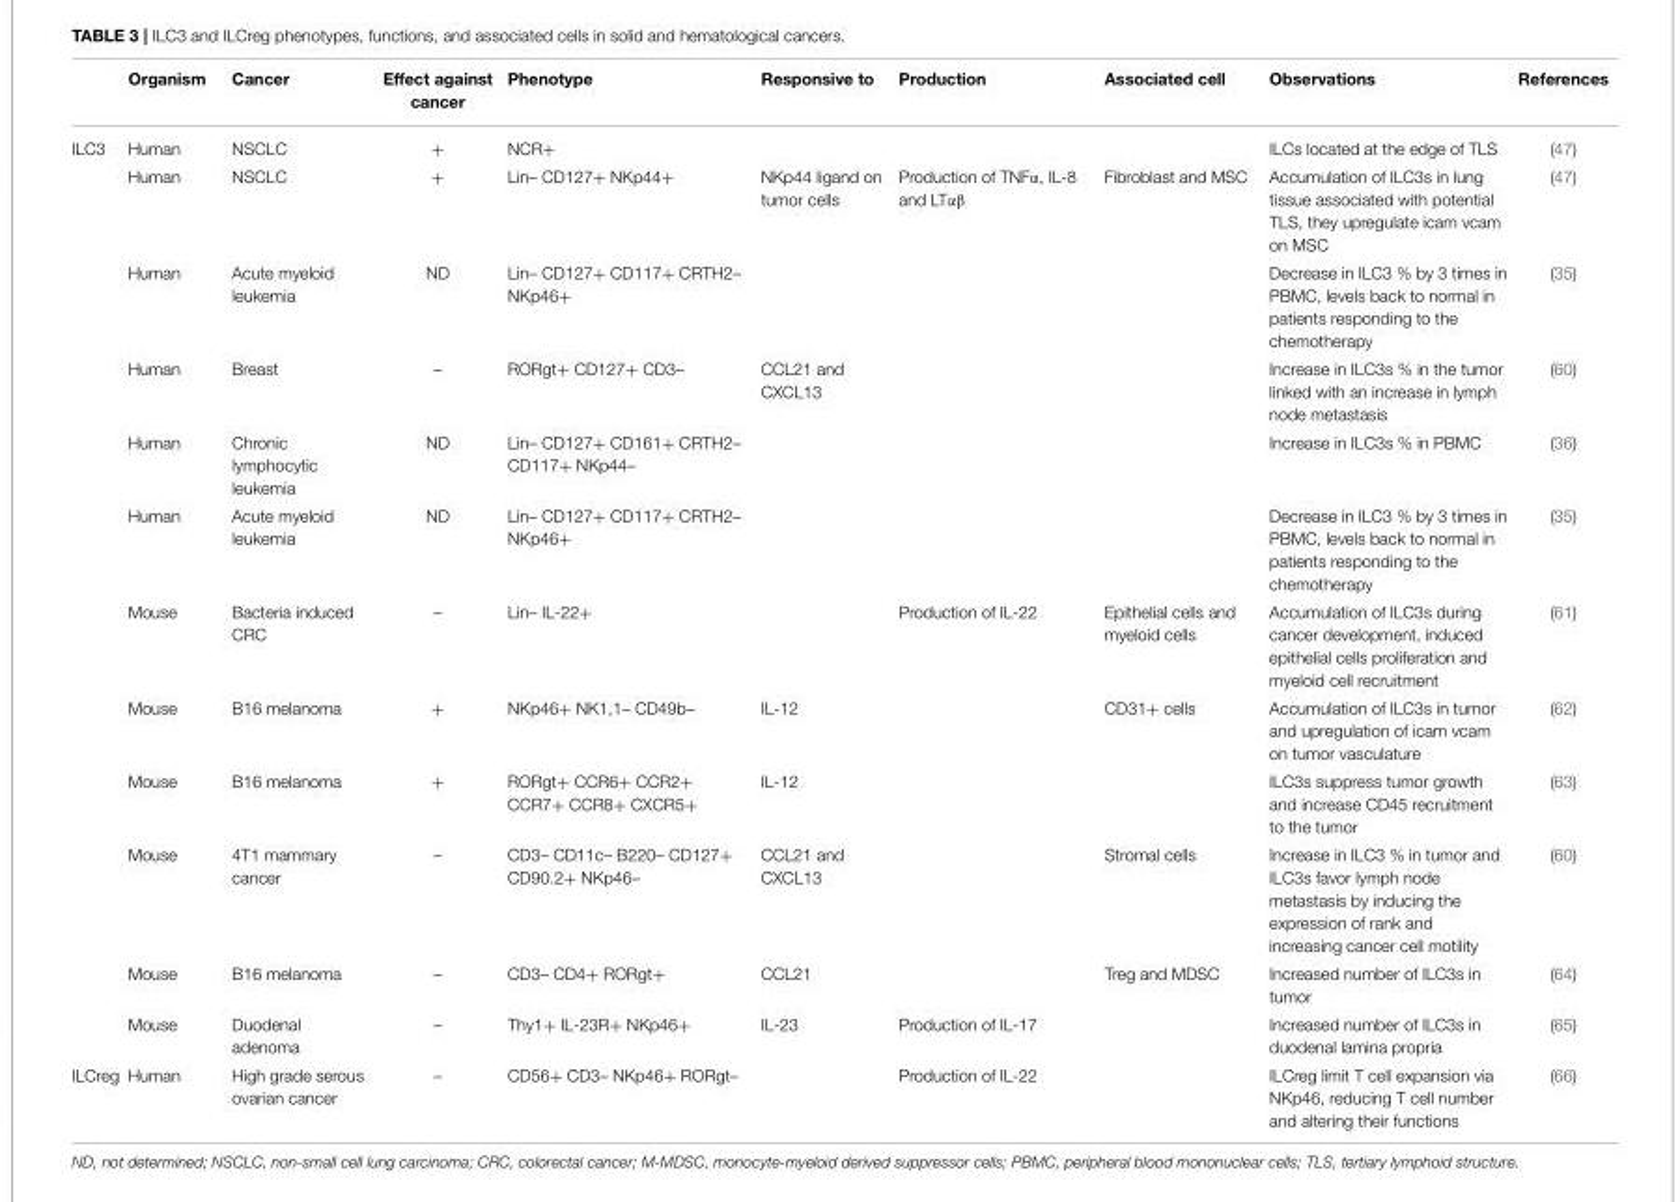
<table><thead><tr><td></td><td>Organism</td><td>Cancer</td><td>Effect against cancer</td><td>Phenotype</td><td>Responsive to</td><td>Production</td><td>Associated cell</td><td>Observations</td><td>References</td></tr></thead><tbody><tr><td rowspan="12">ILC3</td><td>Human</td><td>NSCLC</td><td>+</td><td>NCR+</td><td></td><td></td><td></td><td>ILCs located at the edge of TLS</td><td>(47)</td></tr><tr><td>Human</td><td>NSCLC</td><td>+</td><td>Lin– CD127+ NKp44+</td><td>NKp44 ligand on tumor cells</td><td>Production of TNFα, IL-8 and LTαβ</td><td>Fibroblast and MSC</td><td>Accumulation of ILC3s in lung tissue associated with potential TLS, they upregulate icam vcam on MSC</td><td>(47)</td></tr><tr><td>Human</td><td>Acute myeloid leukemia</td><td>ND</td><td>Lin– CD127+ CD117+ CRTH2– NKp46+</td><td></td><td></td><td></td><td>Decrease in ILC3 % by 3 times in PBMC, levels back to normal in patients responding to the chemotherapy</td><td>(35)</td></tr><tr><td>Human</td><td>Breast</td><td>–</td><td>RORgt+ CD127+ CD3–</td><td>CCL21 and CXCL13</td><td></td><td></td><td>Increase in ILC3s % in the tumor linked with an increase in lymph node metastasis</td><td>(60)</td></tr><tr><td>Human</td><td>Chronic lymphocytic leukemia</td><td>ND</td><td>Lin– CD127+ CD161+ CRTH2– CD117+ NKp44–</td><td></td><td></td><td></td><td>Increase in ILC3s % in PBMC</td><td>(36)</td></tr><tr><td>Human</td><td>Acute myeloid leukemia</td><td>ND</td><td>Lin– CD127+ CD117+ CRTH2– NKp46+</td><td></td><td></td><td></td><td>Decrease in ILC3 % by 3 times in PBMC, levels back to normal in patients responding to the chemotherapy</td><td>(35)</td></tr><tr><td>Mouse</td><td>Bacteria induced CRC</td><td>–</td><td>Lin– IL-22+</td><td></td><td>Production of IL-22</td><td>Epithelial cells and myeloid cells</td><td>Accumulation of ILC3s during cancer development, induced epithelial cells proliferation and myeloid cell recruitment</td><td>(61)</td></tr><tr><td>Mouse</td><td>B16 melanoma</td><td>+</td><td>NKp46+ NK1,1– CD49b–</td><td>IL-12</td><td></td><td>CD31+ cells</td><td>Accumulation of ILC3s in tumor and upregulation of icam vcam on tumor vasculature</td><td>(62)</td></tr><tr><td>Mouse</td><td>B16 melanoma</td><td>+</td><td>RORgt+ CCR6+ CCR2+ CCR7+ CCR8+ CXCR5+</td><td>IL-12</td><td></td><td></td><td>ILC3s suppress tumor growth and increase CD45 recruitment to the tumor</td><td>(63)</td></tr><tr><td>Mouse</td><td>4T1 mammary cancer</td><td>–</td><td>CD3– CD11c– B220– CD127+ CD90.2+ NKp46–</td><td>CCL21 and CXCL13</td><td></td><td>Stromal cells</td><td>Increase in ILC3 % in tumor and ILC3s favor lymph node metastasis by inducing the expression of rank and increasing cancer cell motility</td><td>(60)</td></tr><tr><td>Mouse</td><td>B16 melanoma</td><td>–</td><td>CD3– CD4+ RORgt+</td><td>CCL21</td><td></td><td>Treg and MDSC</td><td>Increased number of ILC3s in tumor</td><td>(64)</td></tr><tr><td>Mouse</td><td>Duodenal adenoma</td><td>–</td><td>Thy1+ IL-23R+ NKp46+</td><td>IL-23</td><td>Production of IL-17</td><td></td><td>Increased number of ILC3s in duodenal lamina propria</td><td>(65)</td></tr><tr><td>ILCreg</td><td>Human</td><td>High grade serous ovarian cancer</td><td>–</td><td>CD56+ CD3– NKp46+ RORgt–</td><td></td><td>Production of IL-22</td><td></td><td>ILCreg limit T cell expansion via NKp46, reducing T cell number and altering their functions</td><td>(66)</td></tr></tbody></table>